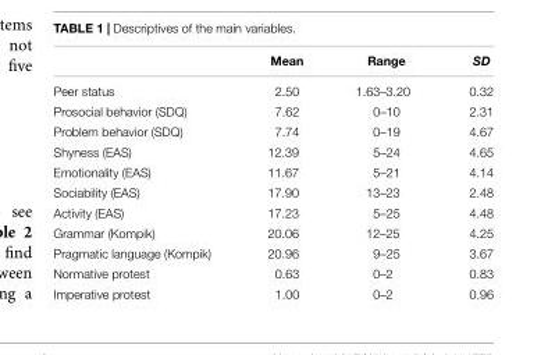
<table><thead><tr><td></td><td>Mean</td><td>Range</td><td>SD</td></tr></thead><tbody><tr><td>Peer status</td><td>2.50</td><td>1.63–3.20</td><td>0.32</td></tr><tr><td>Prosocial behavior (SDQ)</td><td>7.62</td><td>0–10</td><td>2.31</td></tr><tr><td>Problem behavior (SDQ)</td><td>7.74</td><td>0–19</td><td>4.67</td></tr><tr><td>Shyness (EAS)</td><td>12.39</td><td>5–24</td><td>4.65</td></tr><tr><td>Emotionality (EAS)</td><td>11.67</td><td>5–21</td><td>4.14</td></tr><tr><td>Sociability (EAS)</td><td>17.90</td><td>13–23</td><td>2.48</td></tr><tr><td>Activity (EAS)</td><td>17.23</td><td>5–25</td><td>4.48</td></tr><tr><td>Grammar (Kompik)</td><td>20.06</td><td>12–25</td><td>4.25</td></tr><tr><td>Pragmatic language (Kompik)</td><td>20.96</td><td>9–25</td><td>3.67</td></tr><tr><td>Normative protest</td><td>0.63</td><td>0–2</td><td>0.83</td></tr><tr><td>Imperative protest</td><td>1.00</td><td>0–2</td><td>0.96</td></tr></tbody></table>